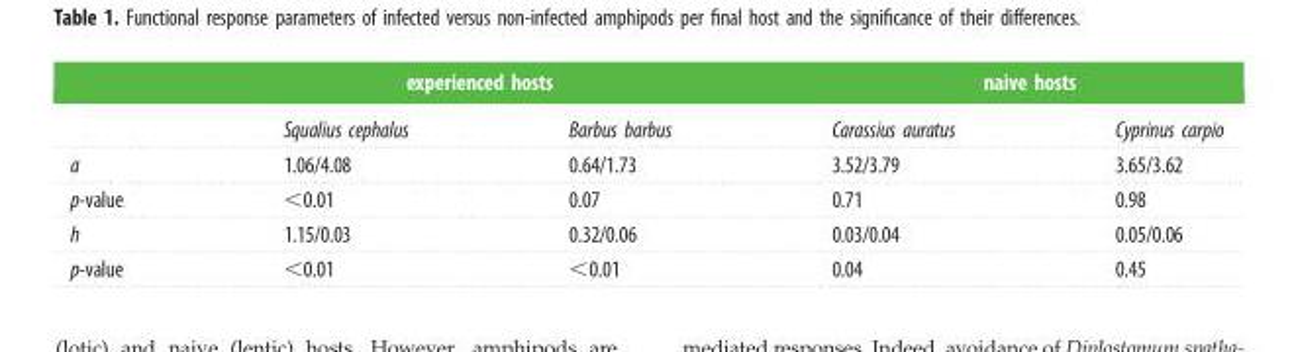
<table><thead><tr><td rowspan="2"></td><td colspan="2">experienced hosts</td><td colspan="2">naive hosts</td></tr><tr><td>Squalius cephalus</td><td>Barbus barbus</td><td>Carassius auratus</td><td>Cyprinus carpio</td></tr></thead><tbody><tr><td>a</td><td>1.06/4.08</td><td>0.64/1.73</td><td>3.52/3.79</td><td>3.65/3.62</td></tr><tr><td>p-value</td><td>&lt;0.01</td><td>0.07</td><td>0.71</td><td>0.98</td></tr><tr><td>h</td><td>1.15/0.03</td><td>0.32/0.06</td><td>0.03/0.04</td><td>0.05/0.06</td></tr><tr><td>p-value</td><td>&lt;0.01</td><td>&lt;0.01</td><td>0.04</td><td>0.45</td></tr></tbody></table>